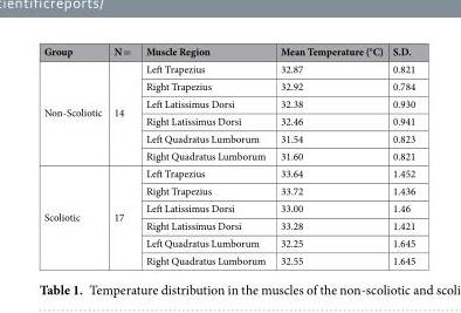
<table><thead><tr><td>Group</td><td>N =</td><td>Muscle Region</td><td>Mean Temperature (°C)</td><td>S.D.</td></tr></thead><tbody><tr><td rowspan="6">Non-Scoliotic</td><td rowspan="6">14</td><td>Left Trapezius</td><td>32.87</td><td>0.821</td></tr><tr><td>Right Trapezius</td><td>32.92</td><td>0.784</td></tr><tr><td>Left Latissimus Dorsi</td><td>32.38</td><td>0.930</td></tr><tr><td>Right Latissimus Dorsi</td><td>32.46</td><td>0.941</td></tr><tr><td>Left Quadratus Lumborum</td><td>31.54</td><td>0.823</td></tr><tr><td>Right Quadratus Lumborum</td><td>31.60</td><td>0.821</td></tr><tr><td rowspan="6">Scoliotic</td><td rowspan="6">17</td><td>Left Trapezius</td><td>33.64</td><td>1.452</td></tr><tr><td>Right Trapezius</td><td>33.72</td><td>1.436</td></tr><tr><td>Left Latissimus Dorsi</td><td>33.00</td><td>1.46</td></tr><tr><td>Right Latissimus Dorsi</td><td>33.28</td><td>1.421</td></tr><tr><td>Left Quadratus Lumborum</td><td>32.25</td><td>1.645</td></tr><tr><td>Right Quadratus Lumborum</td><td>32.55</td><td>1.645</td></tr></tbody></table>